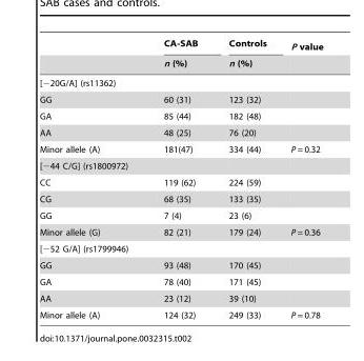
<table><thead><tr><td rowspan="2"></td><td rowspan="2">CA-SAB n (%)</td><td rowspan="2">Controls n (%)</td><td rowspan="2">P value</td></tr><tr></tr></thead><tbody><tr><td colspan="4">[−20G/A] (rs11362)</td></tr><tr><td>GG</td><td>60 (31)</td><td>123 (32)</td><td></td></tr><tr><td>GA</td><td>85 (44)</td><td>182 (48)</td><td></td></tr><tr><td>AA</td><td>48 (25)</td><td>76 (20)</td><td></td></tr><tr><td>Minor allele (A)</td><td>181(47)</td><td>334 (44)</td><td>P = 0.32</td></tr><tr><td colspan="4">[−44 C/G] (rs1800972)</td></tr><tr><td>CC</td><td>119 (62)</td><td>224 (59)</td><td></td></tr><tr><td>CG</td><td>68 (35)</td><td>133 (35)</td><td></td></tr><tr><td>GG</td><td>7 (4)</td><td>23 (6)</td><td></td></tr><tr><td>Minor allele (G)</td><td>82 (21)</td><td>179 (24)</td><td>P = 0.36</td></tr><tr><td colspan="4">[−52 G/A] (rs1799946)</td></tr><tr><td>GG</td><td>93 (48)</td><td>170 (45)</td><td></td></tr><tr><td>GA</td><td>78 (40)</td><td>171 (45)</td><td></td></tr><tr><td>AA</td><td>23 (12)</td><td>39 (10)</td><td></td></tr><tr><td>Minor allele (A)</td><td>124 (32)</td><td>249 (33)</td><td>P = 0.78</td></tr></tbody></table>